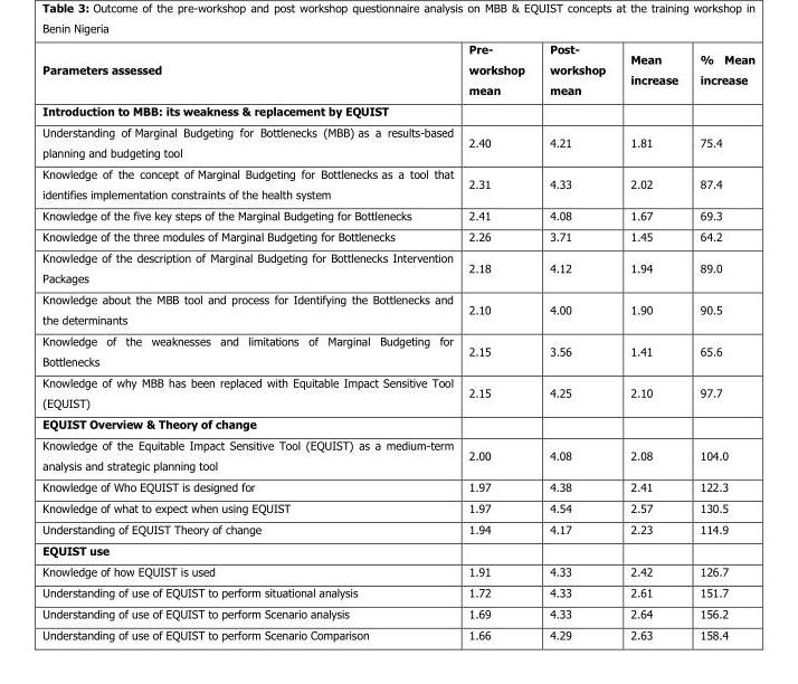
<table><thead><tr><td>Parameters assessed</td><td>Pre- workshop mean</td><td>Post- workshop mean</td><td>Mean increase</td><td>% Mean increase</td></tr></thead><tbody><tr><td colspan="5">Introduction to MBB: its weakness &amp; replacement by EQUIST</td></tr><tr><td>Understanding of Marginal Budgeting for Bottlenecks (MBB) as a results-based planning and budgeting tool</td><td>2.40</td><td>4.21</td><td>1.81</td><td>75.4</td></tr><tr><td>Knowledge of the concept of Marginal Budgeting for Bottlenecks as a tool that identifies implementation constraints of the health system</td><td>2.31</td><td>4.33</td><td>2.02</td><td>87.4</td></tr><tr><td>Knowledge of the five key steps of the Marginal Budgeting for Bottlenecks</td><td>2.41</td><td>4.08</td><td>1.67</td><td>69.3</td></tr><tr><td>Knowledge of the three modules of Marginal Budgeting for Bottlenecks</td><td>2.26</td><td>3.71</td><td>1.45</td><td>64.2</td></tr><tr><td>Knowledge of the description of Marginal Budgeting for Bottlenecks Intervention Packages</td><td>2.18</td><td>4.12</td><td>1.94</td><td>89.0</td></tr><tr><td>Knowledge about the MBB tool and process for Identifying the Bottlenecks and the determinants</td><td>2.10</td><td>4.00</td><td>1.90</td><td>90.5</td></tr><tr><td>Knowledge of the weaknesses and limitations of Marginal Budgeting for Bottlenecks</td><td>2.15</td><td>3.56</td><td>1.41</td><td>65.6</td></tr><tr><td>Knowledge of why MBB has been replaced with Equitable Impact Sensitive Tool (EQUIST)</td><td>2.15</td><td>4.25</td><td>2.10</td><td>97.7</td></tr><tr><td colspan="5">EQUIST Overview &amp; Theory of change</td></tr><tr><td>Knowledge of the Equitable Impact Sensitive Tool (EQUIST) as a medium-term analysis and strategic planning tool</td><td>2.00</td><td>4.08</td><td>2.08</td><td>104.0</td></tr><tr><td>Knowledge of Who EQUIST is designed for</td><td>1.97</td><td>4.38</td><td>2.41</td><td>122.3</td></tr><tr><td>Knowledge of what to expect when using EQUIST</td><td>1.97</td><td>4.54</td><td>2.57</td><td>130.5</td></tr><tr><td>Understanding of EQUIST Theory of change</td><td>1.94</td><td>4.17</td><td>2.23</td><td>114.9</td></tr><tr><td colspan="5">EQUIST use</td></tr><tr><td>Knowledge of how EQUIST is used</td><td>1.91</td><td>4.33</td><td>2.42</td><td>126.7</td></tr><tr><td>Understanding of use of EQUIST to perform situational analysis</td><td>1.72</td><td>4.33</td><td>2.61</td><td>151.7</td></tr><tr><td>Understanding of use of EQUIST to perform Scenario analysis</td><td>1.69</td><td>4.33</td><td>2.64</td><td>156.2</td></tr><tr><td>Understanding of use of EQUIST to perform Scenario Comparison</td><td>1.66</td><td>4.29</td><td>2.63</td><td>158.4</td></tr></tbody></table>